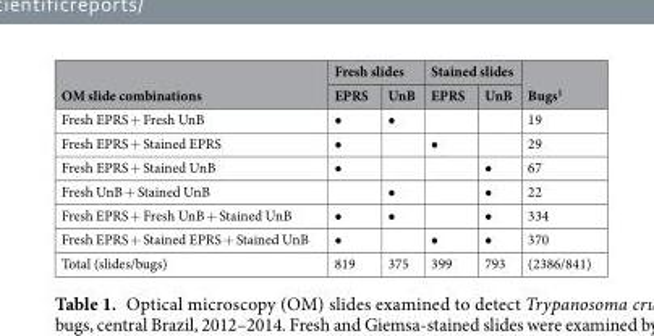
<table><thead><tr><td rowspan="2">OM slide combinations</td><td colspan="2">Fresh slides</td><td colspan="2">Stained slides</td><td rowspan="2">Bugs<sup>1</sup></td></tr><tr><td>EPRS</td><td>UnB</td><td>EPRS</td><td>UnB</td></tr></thead><tbody><tr><td>Fresh EPRS + Fresh UnB</td><td>•</td><td>•</td><td></td><td></td><td>19</td></tr><tr><td>Fresh EPRS + Stained EPRS</td><td>•</td><td></td><td>•</td><td></td><td>29</td></tr><tr><td>Fresh EPRS + Stained UnB</td><td>•</td><td></td><td></td><td>•</td><td>67</td></tr><tr><td>Fresh UnB + Stained UnB</td><td></td><td>•</td><td></td><td>•</td><td>22</td></tr><tr><td>Fresh EPRS + Fresh UnB + Stained UnB</td><td>•</td><td>•</td><td></td><td>•</td><td>334</td></tr><tr><td>Fresh EPRS + Stained EPRS + Stained UnB</td><td>•</td><td></td><td>•</td><td>•</td><td>370</td></tr><tr><td>Total (slides/bugs)</td><td>819</td><td>375</td><td>399</td><td>793</td><td>(2386/841)</td></tr></tbody></table>